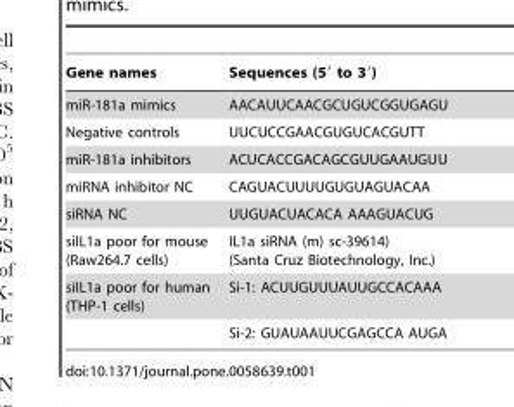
<table><thead><tr><td>Gene names</td><td>Sequences (5′ to 3′)</td></tr></thead><tbody><tr><td>miR-181a mimics</td><td>AACAUUCAACGCUGUCGGUGAGU</td></tr><tr><td>Negative controls</td><td>UUCUCCGAACGUGUCACGUTT</td></tr><tr><td>miR-181a inhibitors</td><td>ACUCACCGACAGCGUUGAAUGUU</td></tr><tr><td>miRNA inhibitor NC</td><td>CAGUACUUUUGUGUAGUACAA</td></tr><tr><td>siRNA NC</td><td>UUGUACUACACA AAAGUACUG</td></tr><tr><td>siIL1a poor for mouse (Raw264.7 cells)</td><td>IL1a siRNA (m) sc-39614) (Santa Cruz Biotechnology, Inc.)</td></tr><tr><td rowspan="2">siIL1a poor for human (THP-1 cells)</td><td>Si-1: ACUUGUUUAUUGCCACAAA</td></tr><tr><td>Si-2: GUAUAAUUCGAGCCA AUGA</td></tr></tbody></table>